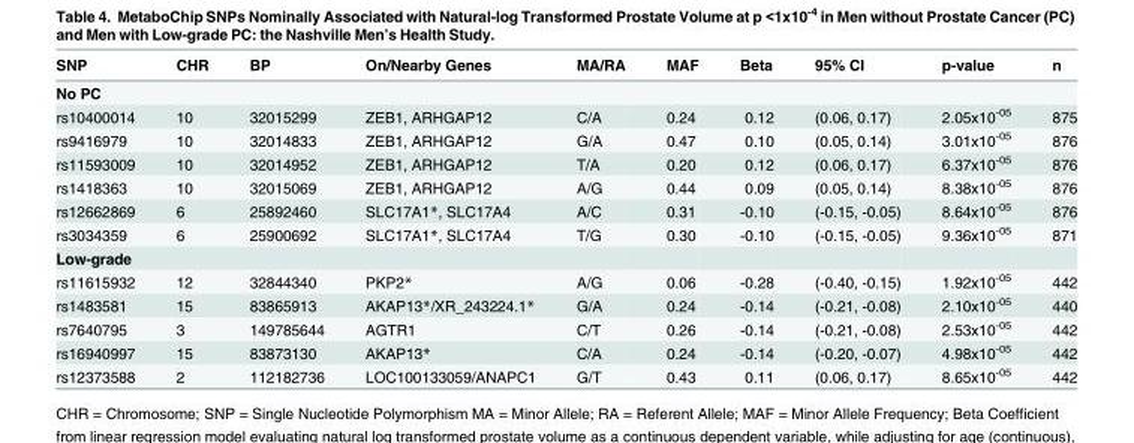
<table><thead><tr><td>SNP</td><td>CHR</td><td>BP</td><td>On/Nearby Genes</td><td>MA/RA</td><td>MAF</td><td>Beta</td><td>95% CI</td><td>p-value</td><td>n</td></tr></thead><tbody><tr><td colspan="10">No PC</td></tr><tr><td>rs10400014</td><td>10</td><td>32015299</td><td>ZEB1, ARHGAP12</td><td>C/A</td><td>0.24</td><td>0.12</td><td>(0.06, 0.17)</td><td>2.05x10<sup>-05</sup></td><td>875</td></tr><tr><td>rs9416979</td><td>10</td><td>32014833</td><td>ZEB1, ARHGAP12</td><td>G/A</td><td>0.47</td><td>0.10</td><td>(0.05, 0.14)</td><td>3.01x10<sup>-05</sup></td><td>876</td></tr><tr><td>rs11593009</td><td>10</td><td>32014952</td><td>ZEB1, ARHGAP12</td><td>T/A</td><td>0.20</td><td>0.12</td><td>(0.06, 0.17)</td><td>6.37x10<sup>-05</sup></td><td>876</td></tr><tr><td>rs1418363</td><td>10</td><td>32015069</td><td>ZEB1, ARHGAP12</td><td>A/G</td><td>0.44</td><td>0.09</td><td>(0.05, 0.14)</td><td>8.38x10<sup>-05</sup></td><td>876</td></tr><tr><td>rs12662869</td><td>6</td><td>25892460</td><td>SLC17A1*, SLC17A4</td><td>A/C</td><td>0.31</td><td>-0.10</td><td>(-0.15, -0.05)</td><td>8.64x10<sup>-05</sup></td><td>876</td></tr><tr><td>rs3034359</td><td>6</td><td>25900692</td><td>SLC17A1*, SLC17A4</td><td>T/G</td><td>0.30</td><td>-0.10</td><td>(-0.15, -0.05)</td><td>9.36x10<sup>-05</sup></td><td>871</td></tr><tr><td colspan="10">Low-grade</td></tr><tr><td>rs11615932</td><td>12</td><td>32844340</td><td>PKP2*</td><td>A/G</td><td>0.06</td><td>-0.28</td><td>(-0.40, -0.15)</td><td>1.92x10<sup>-05</sup></td><td>442</td></tr><tr><td>rs1483581</td><td>15</td><td>83865913</td><td>AKAP13*/XR_243224.1*</td><td>G/A</td><td>0.24</td><td>-0.14</td><td>(-0.21, -0.08)</td><td>2.10x10<sup>-05</sup></td><td>440</td></tr><tr><td>rs7640795</td><td>3</td><td>149785644</td><td>AGTR1</td><td>C/T</td><td>0.26</td><td>-0.14</td><td>(-0.21, -0.08)</td><td>2.53x10<sup>-05</sup></td><td>442</td></tr><tr><td>rs16940997</td><td>15</td><td>83873130</td><td>AKAP13*</td><td>C/A</td><td>0.24</td><td>-0.14</td><td>(-0.20, -0.07)</td><td>4.98x10<sup>-05</sup></td><td>442</td></tr><tr><td>rs12373588</td><td>2</td><td>112182736</td><td>LOC100133059/ANAPC1</td><td>G/T</td><td>0.43</td><td>0.11</td><td>(0.06, 0.17)</td><td>8.65x10<sup>-05</sup></td><td>442</td></tr></tbody></table>